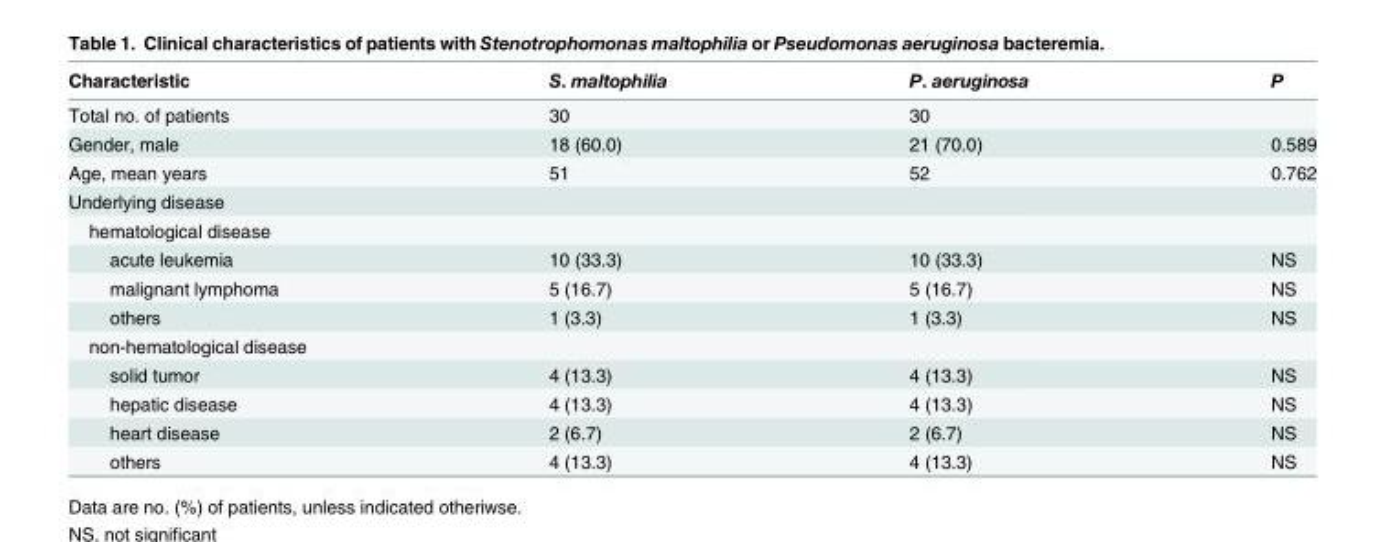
<table><thead><tr><td>Characteristic</td><td>S. maltophilia</td><td>P. aeruginosa</td><td>P</td></tr></thead><tbody><tr><td>Total no. of patients</td><td>30</td><td>30</td><td></td></tr><tr><td>Gender, male</td><td>18 (60.0)</td><td>21 (70.0)</td><td>0.589</td></tr><tr><td>Age, mean years</td><td>51</td><td>52</td><td>0.762</td></tr><tr><td colspan="4">Underlying disease</td></tr><tr><td colspan="4">hematological disease</td></tr><tr><td>acute leukemia</td><td>10 (33.3)</td><td>10 (33.3)</td><td>NS</td></tr><tr><td>malignant lymphoma</td><td>5 (16.7)</td><td>5 (16.7)</td><td>NS</td></tr><tr><td>others</td><td>1 (3.3)</td><td>1 (3.3)</td><td>NS</td></tr><tr><td colspan="4">non-hematological disease</td></tr><tr><td>solid tumor</td><td>4 (13.3)</td><td>4 (13.3)</td><td>NS</td></tr><tr><td>hepatic disease</td><td>4 (13.3)</td><td>4 (13.3)</td><td>NS</td></tr><tr><td>heart disease</td><td>2 (6.7)</td><td>2 (6.7)</td><td>NS</td></tr><tr><td>others</td><td>4 (13.3)</td><td>4 (13.3)</td><td>NS</td></tr></tbody></table>